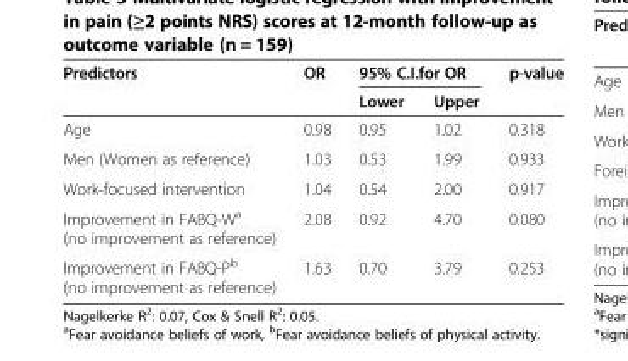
<table><thead><tr><td rowspan="2">Predictors</td><td rowspan="2">OR</td><td colspan="2">95% C.I.for OR</td><td rowspan="2">p-value</td></tr><tr><td>Lower</td><td>Upper</td></tr></thead><tbody><tr><td>Age</td><td>0.98</td><td>0.95</td><td>1.02</td><td>0.318</td></tr><tr><td>Men (Women as reference)</td><td>1.03</td><td>0.53</td><td>1.99</td><td>0.933</td></tr><tr><td>Work-focused intervention</td><td>1.04</td><td>0.54</td><td>2.00</td><td>0.917</td></tr><tr><td>Improvement in FABQ-W<sup>a</sup> (no improvement as reference)</td><td>2.08</td><td>0.92</td><td>4.70</td><td>0.080</td></tr><tr><td>Improvement in FABQ-P<sup>b</sup> (no improvement as reference)</td><td>1.63</td><td>0.70</td><td>3.79</td><td>0.253</td></tr></tbody></table>